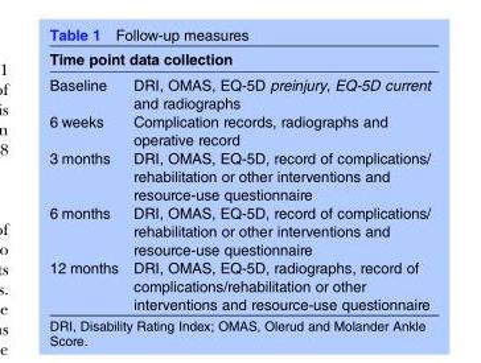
<table><thead><tr><td colspan="2">Time point data collection</td></tr><tr><td>Baseline</td><td>DRI, OMAS, EQ-5D preinjury, EQ-5D current and radiographs</td></tr></thead><tbody><tr><td>6 weeks</td><td>Complication records, radiographs and operative record</td></tr><tr><td>3 months</td><td>DRI, OMAS, EQ-5D, record of complications/ rehabilitation or other interventions and resource-use questionnaire</td></tr><tr><td>6 months</td><td>DRI, OMAS, EQ-5D, record of complications/ rehabilitation or other interventions and resource-use questionnaire</td></tr><tr><td>12 months</td><td>DRI, OMAS, EQ-5D, radiographs, record of complications/rehabilitation or other interventions and resource-use questionnaire</td></tr></tbody></table>